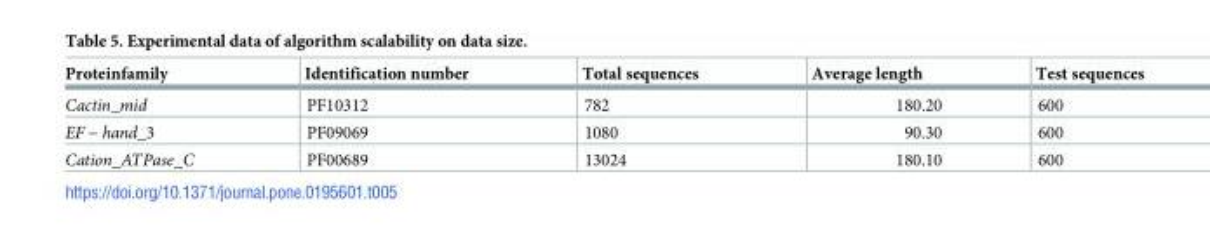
<table><thead><tr><td>Proteinfamily</td><td>Identification number</td><td>Total sequences</td><td>Average length</td><td>Test sequences</td></tr></thead><tbody><tr><td>Cactin_mid</td><td>PF10312</td><td>782</td><td>180.20</td><td>600</td></tr><tr><td>EF − hand_3</td><td>PF09069</td><td>1080</td><td>90.30</td><td>600</td></tr><tr><td>Cation_ATPase_C</td><td>PF00689</td><td>13024</td><td>180.10</td><td>600</td></tr></tbody></table>